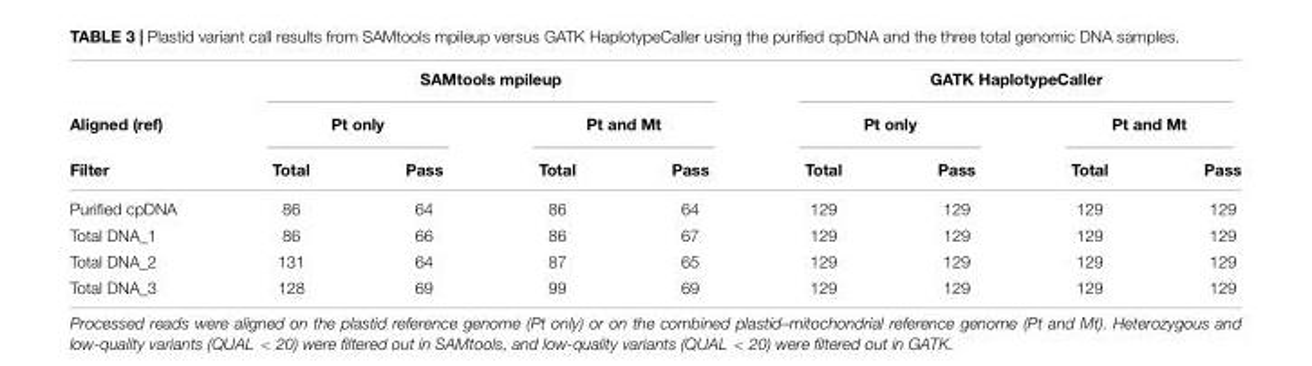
<table><thead><tr><td rowspan="3">Aligned (ref) Filter</td><td colspan="4">SAMtools mpileup</td><td colspan="4">GATK HaplotypeCaller</td></tr><tr><td colspan="2">Pt only</td><td colspan="2">Pt and Mt</td><td colspan="2">Pt only</td><td colspan="2">Pt and Mt</td></tr><tr><td>Total</td><td>Pass</td><td>Total</td><td>Pass</td><td>Total</td><td>Pass</td><td>Total</td><td>Pass</td></tr></thead><tbody><tr><td>Purified cpDNA</td><td>86</td><td>64</td><td>86</td><td>64</td><td>129</td><td>129</td><td>129</td><td>129</td></tr><tr><td>Total DNA_1</td><td>86</td><td>66</td><td>86</td><td>67</td><td>129</td><td>129</td><td>129</td><td>129</td></tr><tr><td>Total DNA_2</td><td>131</td><td>64</td><td>87</td><td>65</td><td>129</td><td>129</td><td>129</td><td>129</td></tr><tr><td>Total DNA_3</td><td>128</td><td>69</td><td>99</td><td>69</td><td>129</td><td>129</td><td>129</td><td>129</td></tr></tbody></table>